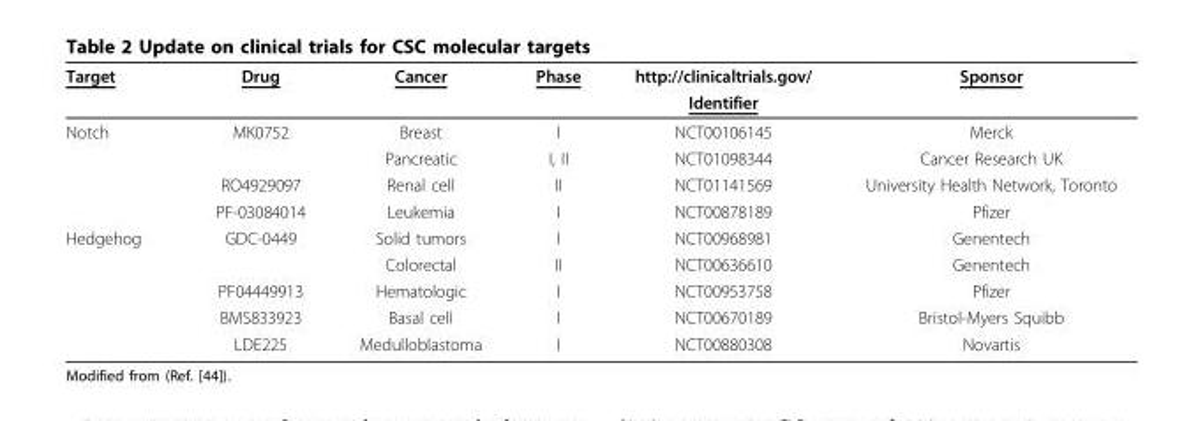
<table><thead><tr><td rowspan="2">Target</td><td rowspan="2">Drug</td><td rowspan="2">Cancer</td><td rowspan="2">Phase</td><td rowspan="2">http://clinicaltrials.gov/ Identifier</td><td rowspan="2">Sponsor</td></tr><tr></tr></thead><tbody><tr><td rowspan="4">Notch</td><td>MK0752</td><td>Breast</td><td>I</td><td>NCT00106145</td><td>Merck</td></tr><tr><td></td><td>Pancreatic</td><td>I, II</td><td>NCT01098344</td><td>Cancer Research UK</td></tr><tr><td>RO4929097</td><td>Renal cell</td><td>II</td><td>NCT01141569</td><td>University Health Network, Toronto</td></tr><tr><td>PF-03084014</td><td>Leukemia</td><td>I</td><td>NCT00878189</td><td>Pfizer</td></tr><tr><td rowspan="5">Hedgehog</td><td>GDC-0449</td><td>Solid tumors</td><td>I</td><td>NCT00968981</td><td>Genentech</td></tr><tr><td></td><td>Colorectal</td><td>II</td><td>NCT00636610</td><td>Genentech</td></tr><tr><td>PF04449913</td><td>Hematologic</td><td>I</td><td>NCT00953758</td><td>Pfizer</td></tr><tr><td>BMS833923</td><td>Basal cell</td><td>I</td><td>NCT00670189</td><td>Bristol-Myers Squibb</td></tr><tr><td>LDE225</td><td>Medulloblastoma</td><td>I</td><td>NCT00880308</td><td>Novartis</td></tr></tbody></table>